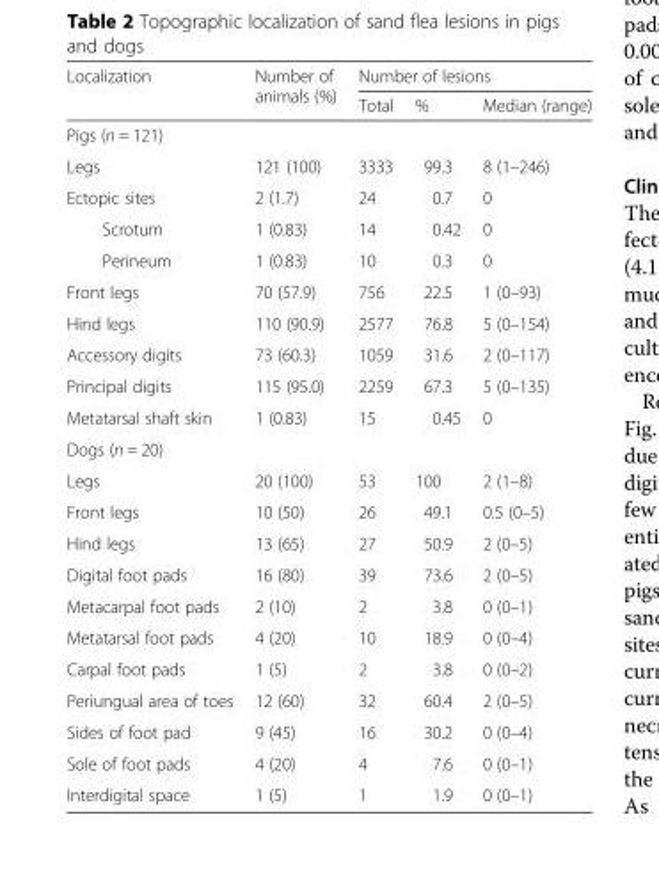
<table><thead><tr><td rowspan="2">Localization</td><td rowspan="2">Number of animals (%)</td><td colspan="3">Number of lesions</td></tr><tr><td>Total</td><td>%</td><td>Median (range)</td></tr></thead><tbody><tr><td colspan="5">Pigs (n = 121)</td></tr><tr><td>Legs</td><td>121 (100)</td><td>3333</td><td>99.3</td><td>8 (1–246)</td></tr><tr><td>Ectopic sites</td><td>2 (1.7)</td><td>24</td><td>0.7</td><td>0</td></tr><tr><td>Scrotum</td><td>1 (0.83)</td><td>14</td><td>0.42</td><td>0</td></tr><tr><td>Perineum</td><td>1 (0.83)</td><td>10</td><td>0.3</td><td>0</td></tr><tr><td>Front legs</td><td>70 (57.9)</td><td>756</td><td>22.5</td><td>1 (0–93)</td></tr><tr><td>Hind legs</td><td>110 (90.9)</td><td>2577</td><td>76.8</td><td>5 (0–154)</td></tr><tr><td>Accessory digits</td><td>73 (60.3)</td><td>1059</td><td>31.6</td><td>2 (0–117)</td></tr><tr><td>Principal digits</td><td>115 (95.0)</td><td>2259</td><td>67.3</td><td>5 (0–135)</td></tr><tr><td>Metatarsal shaft skin</td><td>1 (0.83)</td><td>15</td><td>0.45</td><td>0</td></tr><tr><td colspan="5">Dogs (n = 20)</td></tr><tr><td>Legs</td><td>20 (100)</td><td>53</td><td>100</td><td>2 (1–8)</td></tr><tr><td>Front legs</td><td>10 (50)</td><td>26</td><td>49.1</td><td>0.5 (0–5)</td></tr><tr><td>Hind legs</td><td>13 (65)</td><td>27</td><td>50.9</td><td>2 (0–5)</td></tr><tr><td>Digital foot pads</td><td>16 (80)</td><td>39</td><td>73.6</td><td>2 (0–5)</td></tr><tr><td>Metacarpal foot pads</td><td>2 (10)</td><td>2</td><td>3.8</td><td>0 (0–1)</td></tr><tr><td>Metatarsal foot pads</td><td>4 (20)</td><td>10</td><td>18.9</td><td>0 (0–4)</td></tr><tr><td>Carpal foot pads</td><td>1 (5)</td><td>2</td><td>3.8</td><td>0 (0–2)</td></tr><tr><td>Periungual area of toes</td><td>12 (60)</td><td>32</td><td>60.4</td><td>2 (0–5)</td></tr><tr><td>Sides of foot pad</td><td>9 (45)</td><td>16</td><td>30.2</td><td>0 (0–4)</td></tr><tr><td>Sole of foot pads</td><td>4 (20)</td><td>4</td><td>7.6</td><td>0 (0–1)</td></tr><tr><td>Interdigital space</td><td>1 (5)</td><td>1</td><td>1.9</td><td>0 (0–1)</td></tr></tbody></table>